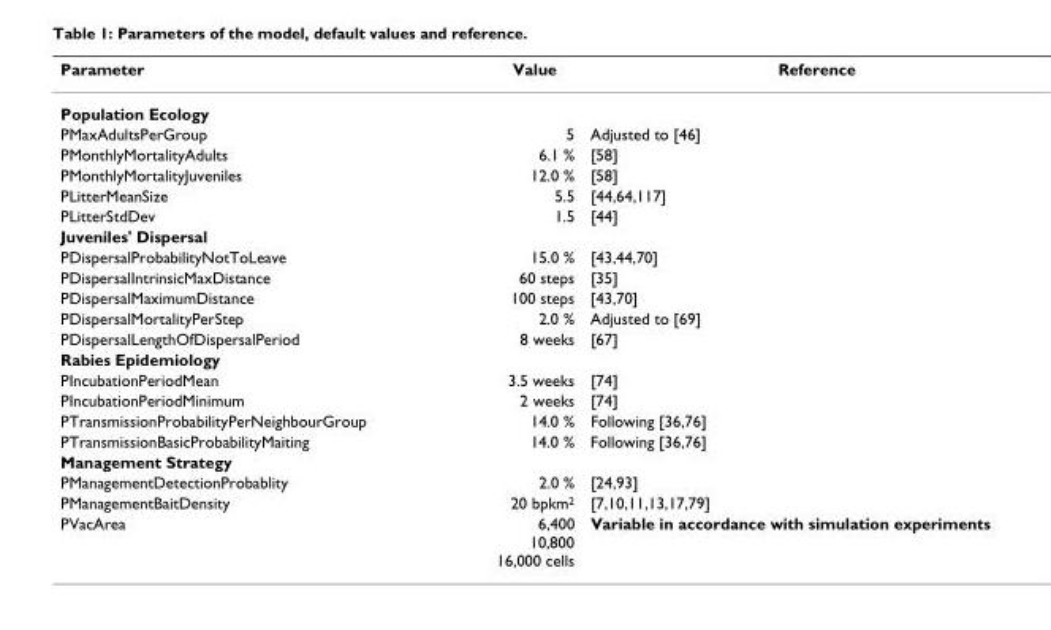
<table><thead><tr><td>Parameter</td><td>Value</td><td>Reference</td></tr></thead><tbody><tr><td colspan="3">Population Ecology</td></tr><tr><td>PMaxAdultsPerGroup</td><td>5</td><td>Adjusted to [46]</td></tr><tr><td>PMonthlyMortalityAdults</td><td>6.1 %</td><td>[58]</td></tr><tr><td>PMonthlyMortalityJuveniles</td><td>12.0 %</td><td>[58]</td></tr><tr><td>PLitterMeanSize</td><td>5.5</td><td>[44,64,117]</td></tr><tr><td>PLitterStdDev</td><td>1.5</td><td>[44]</td></tr><tr><td colspan="3">Juveniles&#x27; Dispersal</td></tr><tr><td>PDispersalProbabilityNotToLeave</td><td>15.0 %</td><td>[43,44,70]</td></tr><tr><td>PDispersalIntrinsicMaxDistance</td><td>60 steps</td><td>[35]</td></tr><tr><td>PDispersalMaximumDistance</td><td>100 steps</td><td>[43,70]</td></tr><tr><td>PDispersalMortalityPerStep</td><td>2.0 %</td><td>Adjusted to [69]</td></tr><tr><td>PDispersalLengthOfDispersalPeriod</td><td>8 weeks</td><td>[67]</td></tr><tr><td colspan="3">Rabies Epidemiology</td></tr><tr><td>PIncubationPeriodMean</td><td>3.5 weeks</td><td>[74]</td></tr><tr><td>PIncubationPeriodMinimum</td><td>2 weeks</td><td>[74]</td></tr><tr><td>PTransmissionProbabilityPerNeighbourGroup</td><td>14.0 %</td><td>Following [36,76]</td></tr><tr><td>PTransmissionBasicProbabilityMaiting</td><td>14.0 %</td><td>Following [36,76]</td></tr><tr><td colspan="3">Management Strategy</td></tr><tr><td>PManagementDetectionProbablity</td><td>2.0 %</td><td>[24,93]</td></tr><tr><td>PManagementBaitDensity</td><td>20 bpkm<sup>2</sup></td><td>[7,10,11,13,17,79]</td></tr><tr><td>PVacArea</td><td>6,400 10,800 16,000 cells</td><td>Variable in accordance with simulation experiments</td></tr></tbody></table>